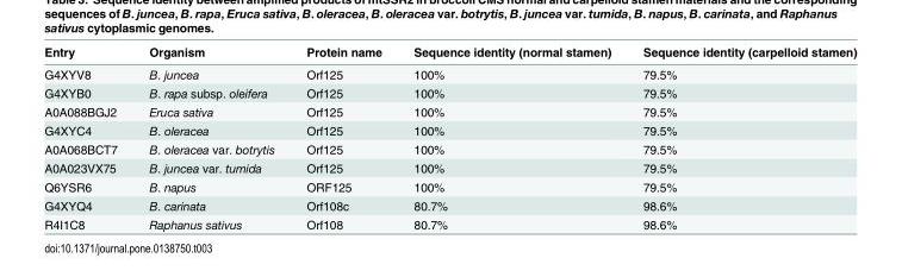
<table><thead><tr><td>Entry</td><td>Organism</td><td>Protein name</td><td>Sequence identity (normal stamen)</td><td>Sequence identity (carpelloid stamen)</td></tr></thead><tbody><tr><td>G4XYV8</td><td>B. juncea</td><td>Orf125</td><td>100%</td><td>79.5%</td></tr><tr><td>G4XYB0</td><td>B. rapa subsp. oleifera</td><td>Orf125</td><td>100%</td><td>79.5%</td></tr><tr><td>A0A088BGJ2</td><td>Eruca sativa</td><td>Orf125</td><td>100%</td><td>79.5%</td></tr><tr><td>G4XYC4</td><td>B. oleracea</td><td>Orf125</td><td>100%</td><td>79.5%</td></tr><tr><td>A0A068BCT7</td><td>B. oleracea var. botrytis</td><td>Orf125</td><td>100%</td><td>79.5%</td></tr><tr><td>A0A023VX75</td><td>B. juncea var. tumida</td><td>Orf125</td><td>100%</td><td>79.5%</td></tr><tr><td>Q6YSR6</td><td>B. napus</td><td>ORF125</td><td>100%</td><td>79.5%</td></tr><tr><td>G4XYQ4</td><td>B. carinata</td><td>Orf108c</td><td>80.7%</td><td>98.6%</td></tr><tr><td>R4I1C8</td><td>Raphanus sativus</td><td>Orf108</td><td>80.7%</td><td>98.6%</td></tr></tbody></table>